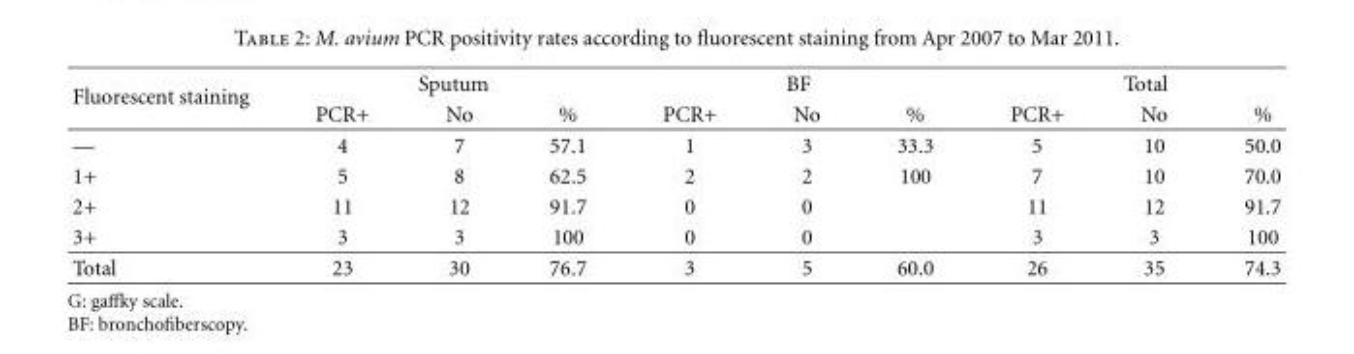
<table><thead><tr><td rowspan="2">Fluorescent staining</td><td colspan="3">Sputum</td><td colspan="3">BF</td><td colspan="3">Total</td></tr><tr><td>PCR+</td><td>No</td><td>%</td><td>PCR+</td><td>No</td><td>%</td><td>PCR+</td><td>No</td><td>%</td></tr></thead><tbody><tr><td>—</td><td>4</td><td>7</td><td>57.1</td><td>1</td><td>3</td><td>33.3</td><td>5</td><td>10</td><td>50.0</td></tr><tr><td>1+</td><td>5</td><td>8</td><td>62.5</td><td>2</td><td>2</td><td>100</td><td>7</td><td>10</td><td>70.0</td></tr><tr><td>2+</td><td>11</td><td>12</td><td>91.7</td><td>0</td><td>0</td><td></td><td>11</td><td>12</td><td>91.7</td></tr><tr><td>3+</td><td>3</td><td>3</td><td>100</td><td>0</td><td>0</td><td></td><td>3</td><td>3</td><td>100</td></tr><tr><td>Total</td><td>23</td><td>30</td><td>76.7</td><td>3</td><td>5</td><td>60.0</td><td>26</td><td>35</td><td>74.3</td></tr></tbody></table>